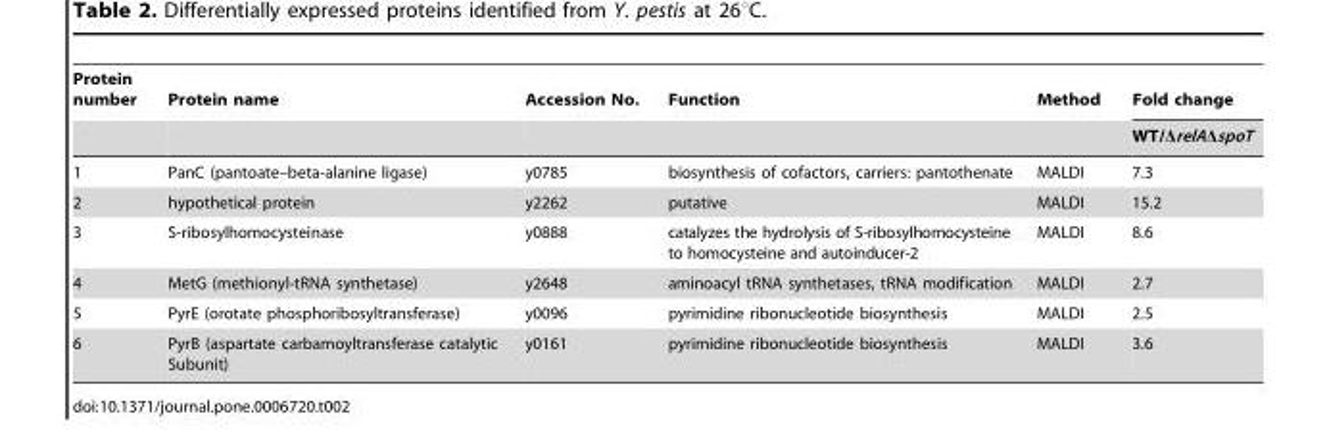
<table><thead><tr><td rowspan="2">Protein number</td><td rowspan="2">Protein name</td><td rowspan="2">Accession No.</td><td rowspan="2">Function</td><td rowspan="2">Method</td><td rowspan="2">Fold change WT/ΔrelAΔspoT</td></tr><tr></tr></thead><tbody><tr><td>1</td><td>PanC (pantoate–beta-alanine ligase)</td><td>y0785</td><td>biosynthesis of cofactors, carriers: pantothenate</td><td>MALDI</td><td>7.3</td></tr><tr><td>2</td><td>hypothetical protein</td><td>y2262</td><td>putative</td><td>MALDI</td><td>15.2</td></tr><tr><td>3</td><td>S-ribosylhomocysteinase</td><td>y0888</td><td>catalyzes the hydrolysis of S-ribosylhomocysteine to homocysteine and autoinducer-2</td><td>MALDI</td><td>8.6</td></tr><tr><td>4</td><td>MetG (methionyl-tRNA synthetase)</td><td>y2648</td><td>aminoacyl tRNA synthetases, tRNA modification</td><td>MALDI</td><td>2.7</td></tr><tr><td>5</td><td>PyrE (orotate phosphoribosyltransferase)</td><td>y0096</td><td>pyrimidine ribonucleotide biosynthesis</td><td>MALDI</td><td>2.5</td></tr><tr><td>6</td><td>PyrB (aspartate carbamoyltransferase catalytic Subunit)</td><td>y0161</td><td>pyrimidine ribonucleotide biosynthesis</td><td>MALDI</td><td>3.6</td></tr></tbody></table>